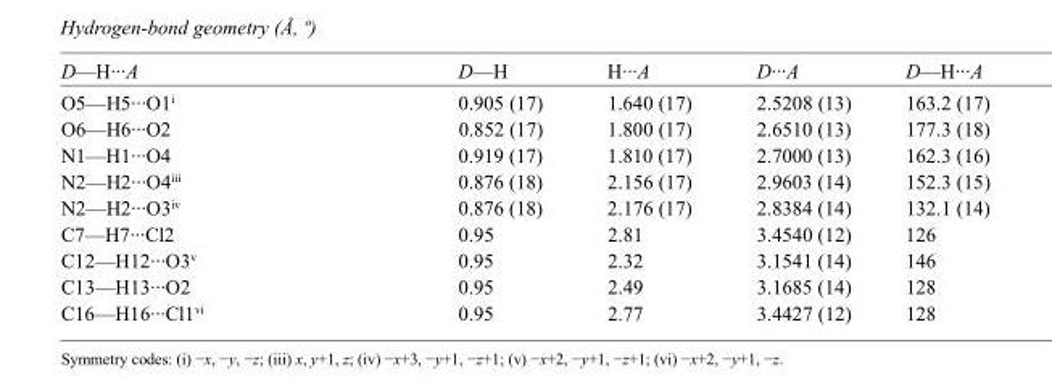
<table><tbody><tr><td>D—H···A</td><td>D—H</td><td>H···A</td><td>D···A</td><td>D—H···A</td></tr><tr><td>O5—H5···O1<sup>i</sup></td><td>0.905 (17)</td><td>1.640 (17)</td><td>2.5208 (13)</td><td>163.2 (17)</td></tr><tr><td>O6—H6···O2</td><td>0.852 (17)</td><td>1.800 (17)</td><td>2.6510 (13)</td><td>177.3 (18)</td></tr><tr><td>N1—H1···O4</td><td>0.919 (17)</td><td>1.810 (17)</td><td>2.7000 (13)</td><td>162.3 (16)</td></tr><tr><td>N2—H2···O4<sup>iii</sup></td><td>0.876 (18)</td><td>2.156 (17)</td><td>2.9603 (14)</td><td>152.3 (15)</td></tr><tr><td>N2—H2···O3<sup>iv</sup></td><td>0.876 (18)</td><td>2.176 (17)</td><td>2.8384 (14)</td><td>132.1 (14)</td></tr><tr><td>C7—H7···Cl2</td><td>0.95</td><td>2.81</td><td>3.4540 (12)</td><td>126</td></tr><tr><td>C12—H12···O3<sup>v</sup></td><td>0.95</td><td>2.32</td><td>3.1541 (14)</td><td>146</td></tr><tr><td>C13—H13···O2</td><td>0.95</td><td>2.49</td><td>3.1685 (14)</td><td>128</td></tr><tr><td>C16—H16···Cl1<sup>vi</sup></td><td>0.95</td><td>2.77</td><td>3.4427 (12)</td><td>128</td></tr></tbody></table>